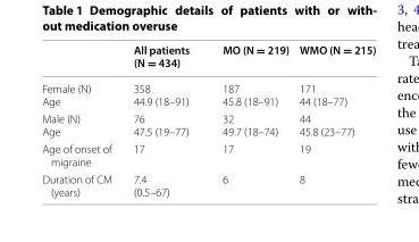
<table><thead><tr><td></td><td>All patients (N = 434)</td><td>MO (N = 219)</td><td>WMO (N = 215)</td></tr></thead><tbody><tr><td>Female (N) Age</td><td>358 44.9 (18–91)</td><td>187 45.8 (18–91)</td><td>171 44 (18–77)</td></tr><tr><td>Male (N) Age</td><td>76 47.5 (19–77)</td><td>32 49.7 (18–74)</td><td>44 45.8 (23–77)</td></tr><tr><td>Age of onset of migraine</td><td>17</td><td>17</td><td>19</td></tr><tr><td>Duration of CM (years)</td><td>7.4 (0.5–67)</td><td>6</td><td>8</td></tr></tbody></table>